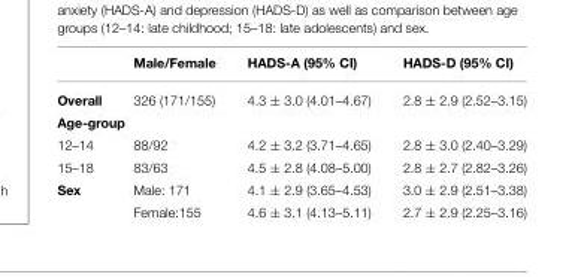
<table><thead><tr><td></td><td>Male/Female</td><td>HADS-A (95% CI)</td><td>HADS-D (95% CI)</td></tr></thead><tbody><tr><td>Overall</td><td>326 (171/155)</td><td>4.3 ± 3.0 (4.01–4.67)</td><td>2.8 ± 2.9 (2.52–3.15)</td></tr><tr><td colspan="4">Age-group</td></tr><tr><td>12–14</td><td>88/92</td><td>4.2 ± 3.2 (3.71–4.65)</td><td>2.8 ± 3.0 (2.40–3.29)</td></tr><tr><td>15–18</td><td>83/63</td><td>4.5 ± 2.8 (4.08–5.00)</td><td>2.8 ± 2.7 (2.82–3.26)</td></tr><tr><td rowspan="2">Sex</td><td>Male: 171</td><td>4.1 ± 2.9 (3.65–4.53)</td><td>3.0 ± 2.9 (2.51–3.38)</td></tr><tr><td>Female:155</td><td>4.6 ± 3.1 (4.13–5.11)</td><td>2.7 ± 2.9 (2.25–3.16)</td></tr></tbody></table>